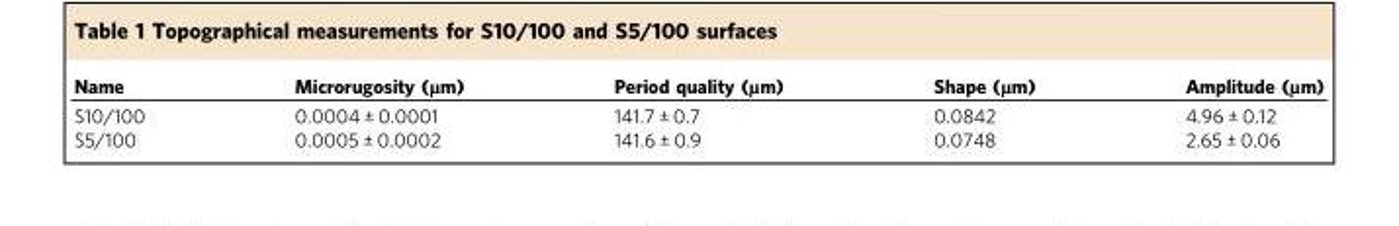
<table><thead><tr><td>Name</td><td>Microrugosity (µm)</td><td>Period quality (µm)</td><td>Shape (µm)</td><td>Amplitude (µm)</td></tr></thead><tbody><tr><td>S10/100</td><td>0.0004 ± 0.0001</td><td>141.7 ± 0.7</td><td>0.0842</td><td>4.96 ± 0.12</td></tr><tr><td>S5/100</td><td>0.0005 ± 0.0002</td><td>141.6 ± 0.9</td><td>0.0748</td><td>2.65 ± 0.06</td></tr></tbody></table>